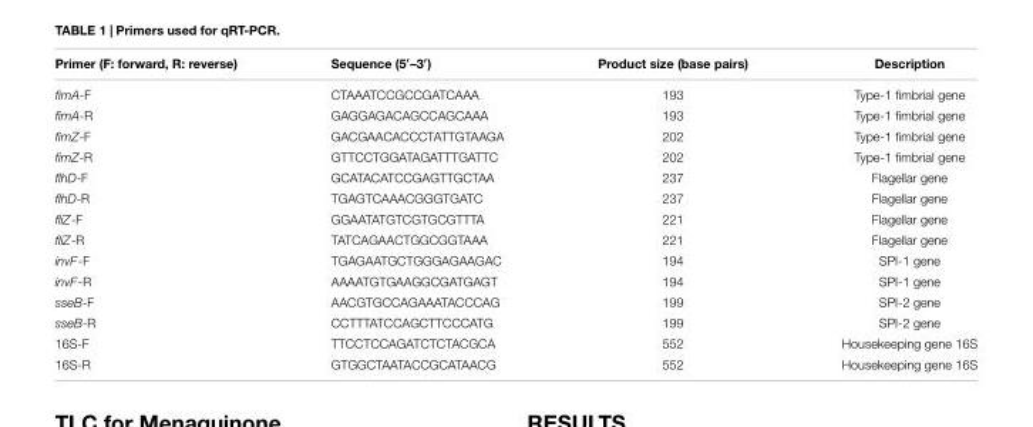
<table><thead><tr><td>Primer (F: forward, R: reverse)</td><td>Sequence (5′–3′)</td><td>Product size (base pairs)</td><td>Description</td></tr></thead><tbody><tr><td>fimA-F</td><td>CTAAATCCGCCGATCAAA</td><td>193</td><td>Type-1 fimbrial gene</td></tr><tr><td>fimA-R</td><td>GAGGAGACAGCCAGCAAA</td><td>193</td><td>Type-1 fimbrial gene</td></tr><tr><td>fimZ-F</td><td>GACGAACACCCTATTGTAAGA</td><td>202</td><td>Type-1 fimbrial gene</td></tr><tr><td>fimZ-R</td><td>GTTCCTGGATAGATTTGATTC</td><td>202</td><td>Type-1 fimbrial gene</td></tr><tr><td>flhD-F</td><td>GCATACATCCGAGTTGCTAA</td><td>237</td><td>Flagellar gene</td></tr><tr><td>flhD-R</td><td>TGAGTCAAACGGGTGATC</td><td>237</td><td>Flagellar gene</td></tr><tr><td>fliZ-F</td><td>GGAATATGTCGTGCGTTTA</td><td>221</td><td>Flagellar gene</td></tr><tr><td>fliZ-R</td><td>TATCAGAACTGGCGGTAAA</td><td>221</td><td>Flagellar gene</td></tr><tr><td>invF-F</td><td>TGAGAATGCTGGGAGAAGAC</td><td>194</td><td>SPI-1 gene</td></tr><tr><td>invF-R</td><td>AAAATGTGAAGGCGATGAGT</td><td>194</td><td>SPI-1 gene</td></tr><tr><td>sseB-F</td><td>AACGTGCCAGAAATACCCAG</td><td>199</td><td>SPI-2 gene</td></tr><tr><td>sseB-R</td><td>CCTTTATCCAGCTTCCCATG</td><td>199</td><td>SPI-2 gene</td></tr><tr><td>16S-F</td><td>TTCCTCCAGATCTCTACGCA</td><td>552</td><td>Housekeeping gene 16S</td></tr><tr><td>16S-R</td><td>GTGGCTAATACCGCATAACG</td><td>552</td><td>Housekeeping gene 16S</td></tr></tbody></table>